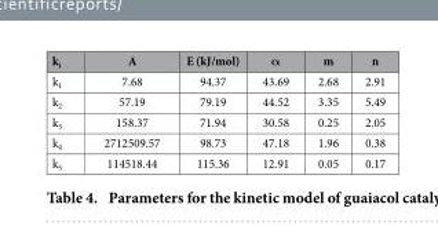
<table><thead><tr><td>k<sub>i</sub></td><td>A</td><td>E (kJ/mol)</td><td>α</td><td>m</td><td>n</td></tr></thead><tbody><tr><td>k<sub>1</sub></td><td>7.68</td><td>94.37</td><td>43.69</td><td>2.68</td><td>2.91</td></tr><tr><td>k<sub>2</sub></td><td>57.19</td><td>79.19</td><td>44.52</td><td>3.35</td><td>5.49</td></tr><tr><td>k<sub>3</sub></td><td>158.37</td><td>71.94</td><td>30.58</td><td>0.25</td><td>2.05</td></tr><tr><td>k<sub>4</sub></td><td>2712509.57</td><td>98.73</td><td>47.18</td><td>1.96</td><td>0.38</td></tr><tr><td>k<sub>5</sub></td><td>114518.44</td><td>115.36</td><td>12.91</td><td>0.05</td><td>0.17</td></tr></tbody></table>